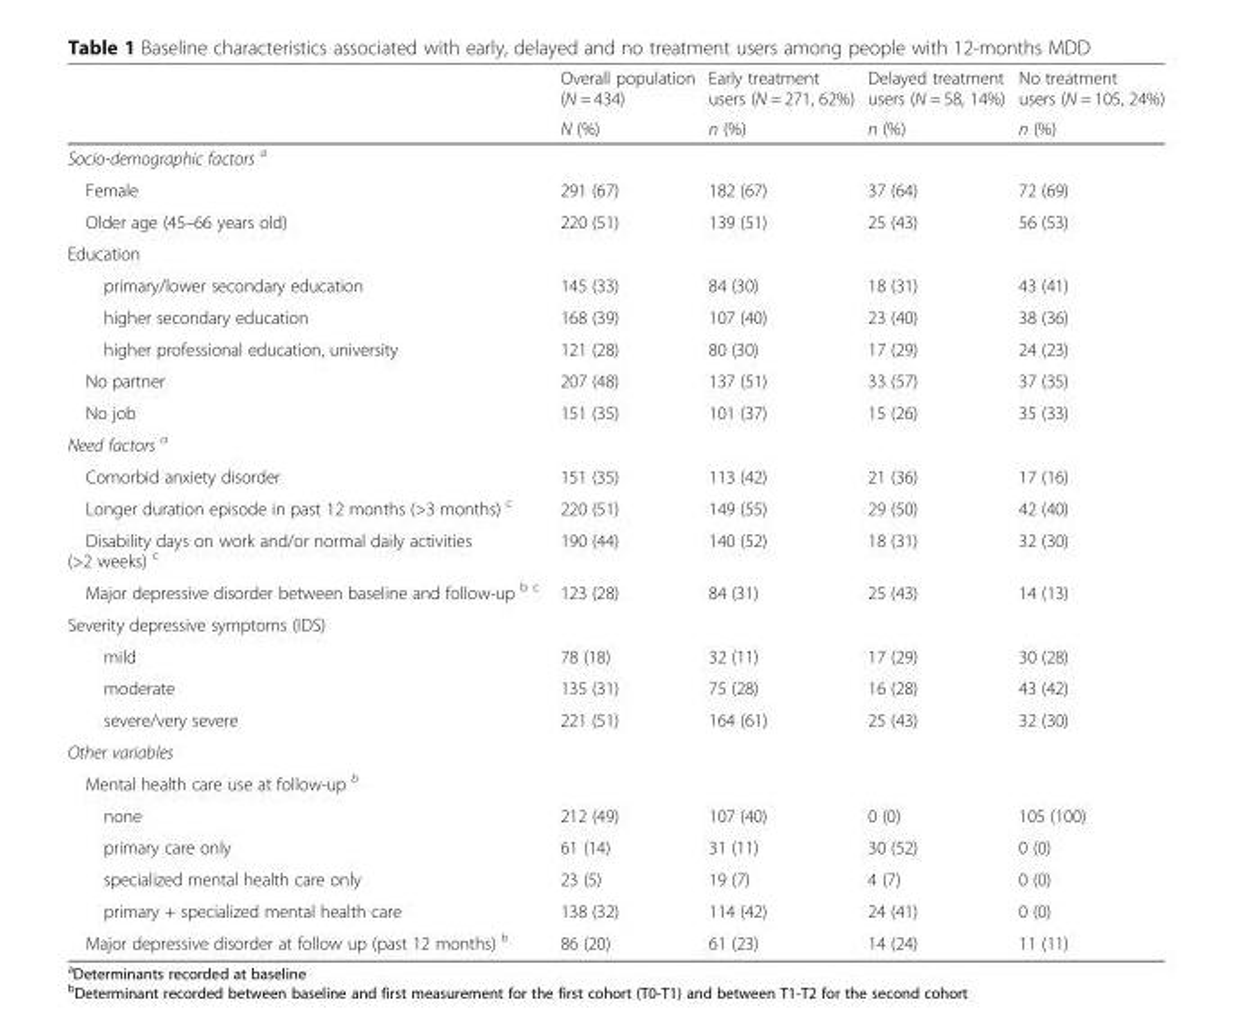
<table><thead><tr><td rowspan="2"></td><td rowspan="2">Overall population (N = 434) N (%)</td><td rowspan="2">Early treatment users (N = 271, 62%) n (%)</td><td rowspan="2">Delayed treatment users (N = 58, 14%) n (%)</td><td rowspan="2">No treatment users (N = 105, 24%) n (%)</td></tr><tr></tr></thead><tbody><tr><td colspan="5">Socio-demographic factors <sup>a</sup></td></tr><tr><td>Female</td><td>291 (67)</td><td>182 (67)</td><td>37 (64)</td><td>72 (69)</td></tr><tr><td>Older age (45–66 years old)</td><td>220 (51)</td><td>139 (51)</td><td>25 (43)</td><td>56 (53)</td></tr><tr><td colspan="5">Education</td></tr><tr><td>primary/lower secondary education</td><td>145 (33)</td><td>84 (30)</td><td>18 (31)</td><td>43 (41)</td></tr><tr><td>higher secondary education</td><td>168 (39)</td><td>107 (40)</td><td>23 (40)</td><td>38 (36)</td></tr><tr><td>higher professional education, university</td><td>121 (28)</td><td>80 (30)</td><td>17 (29)</td><td>24 (23)</td></tr><tr><td>No partner</td><td>207 (48)</td><td>137 (51)</td><td>33 (57)</td><td>37 (35)</td></tr><tr><td>No job</td><td>151 (35)</td><td>101 (37)</td><td>15 (26)</td><td>35 (33)</td></tr><tr><td colspan="5">Need factors <sup>a</sup></td></tr><tr><td>Comorbid anxiety disorder</td><td>151 (35)</td><td>113 (42)</td><td>21 (36)</td><td>17 (16)</td></tr><tr><td>Longer duration episode in past 12 months (&gt;3 months) <sup>c</sup></td><td>220 (51)</td><td>149 (55)</td><td>29 (50)</td><td>42 (40)</td></tr><tr><td>Disability days on work and/or normal daily activities (&gt;2 weeks) <sup>c</sup></td><td>190 (44)</td><td>140 (52)</td><td>18 (31)</td><td>32 (30)</td></tr><tr><td>Major depressive disorder between baseline and follow-up <sup>b c</sup></td><td>123 (28)</td><td>84 (31)</td><td>25 (43)</td><td>14 (13)</td></tr><tr><td colspan="5">Severity depressive symptoms (IDS)</td></tr><tr><td>mild</td><td>78 (18)</td><td>32 (11)</td><td>17 (29)</td><td>30 (28)</td></tr><tr><td>moderate</td><td>135 (31)</td><td>75 (28)</td><td>16 (28)</td><td>43 (42)</td></tr><tr><td>severe/very severe</td><td>221 (51)</td><td>164 (61)</td><td>25 (43)</td><td>32 (30)</td></tr><tr><td colspan="5">Other variables</td></tr><tr><td colspan="5">Mental health care use at follow-up <sup>b</sup></td></tr><tr><td>none</td><td>212 (49)</td><td>107 (40)</td><td>0 (0)</td><td>105 (100)</td></tr><tr><td>primary care only</td><td>61 (14)</td><td>31 (11)</td><td>30 (52)</td><td>0 (0)</td></tr><tr><td>specialized mental health care only</td><td>23 (5)</td><td>19 (7)</td><td>4 (7)</td><td>0 (0)</td></tr><tr><td>primary + specialized mental health care</td><td>138 (32)</td><td>114 (42)</td><td>24 (41)</td><td>0 (0)</td></tr><tr><td>Major depressive disorder at follow up (past 12 months) <sup>b</sup></td><td>86 (20)</td><td>61 (23)</td><td>14 (24)</td><td>11 (11)</td></tr></tbody></table>